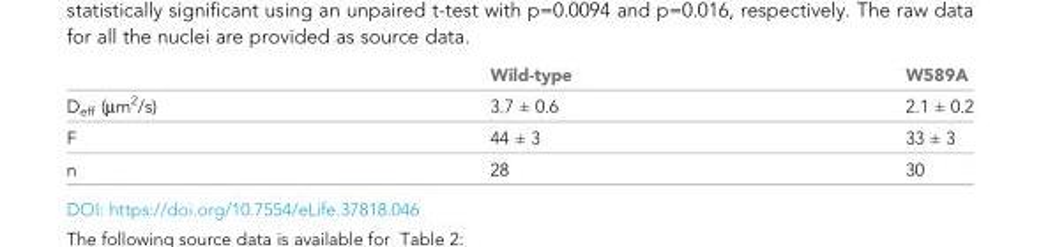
<table><thead><tr><td></td><td>Wild-type</td><td>W589A</td></tr></thead><tbody><tr><td>D<sub>eff</sub> (µm<sup>2</sup>/s)</td><td>3.7 ± 0.6</td><td>2.1 ± 0.2</td></tr><tr><td>F</td><td>44 ± 3</td><td>33 ± 3</td></tr><tr><td>n</td><td>28</td><td>30</td></tr></tbody></table>